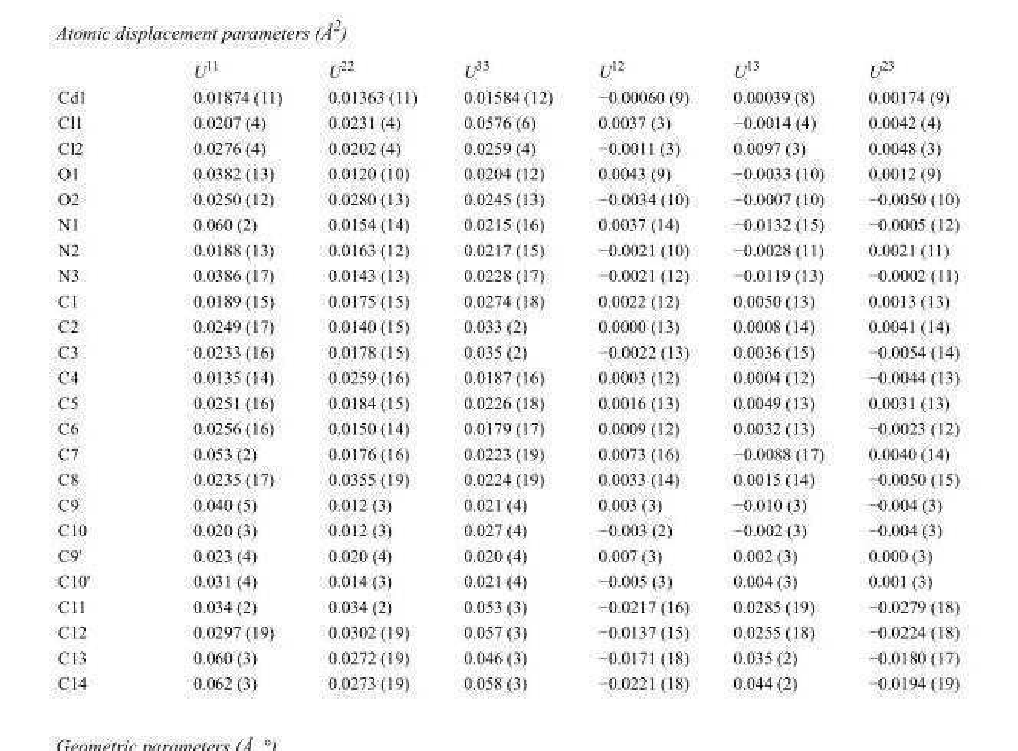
<table><thead><tr><td></td><td>U<sup>11</sup></td><td>U<sup>22</sup></td><td>U<sup>33</sup></td><td>U<sup>12</sup></td><td>U<sup>13</sup></td><td>U<sup>23</sup></td></tr></thead><tbody><tr><td>Cd1</td><td>0.01874 (11)</td><td>0.01363 (11)</td><td>0.01584 (12)</td><td>−0.00060 (9)</td><td>0.00039 (8)</td><td>0.00174 (9)</td></tr><tr><td>Cl1</td><td>0.0207 (4)</td><td>0.0231 (4)</td><td>0.0576 (6)</td><td>0.0037 (3)</td><td>−0.0014 (4)</td><td>0.0042 (4)</td></tr><tr><td>Cl2</td><td>0.0276 (4)</td><td>0.0202 (4)</td><td>0.0259 (4)</td><td>−0.0011 (3)</td><td>0.0097 (3)</td><td>0.0048 (3)</td></tr><tr><td>O1</td><td>0.0382 (13)</td><td>0.0120 (10)</td><td>0.0204 (12)</td><td>0.0043 (9)</td><td>−0.0033 (10)</td><td>0.0012 (9)</td></tr><tr><td>O2</td><td>0.0250 (12)</td><td>0.0280 (13)</td><td>0.0245 (13)</td><td>−0.0034 (10)</td><td>−0.0007 (10)</td><td>−0.0050 (10)</td></tr><tr><td>N1</td><td>0.060 (2)</td><td>0.0154 (14)</td><td>0.0215 (16)</td><td>0.0037 (14)</td><td>−0.0132 (15)</td><td>−0.0005 (12)</td></tr><tr><td>N2</td><td>0.0188 (13)</td><td>0.0163 (12)</td><td>0.0217 (15)</td><td>−0.0021 (10)</td><td>−0.0028 (11)</td><td>0.0021 (11)</td></tr><tr><td>N3</td><td>0.0386 (17)</td><td>0.0143 (13)</td><td>0.0228 (17)</td><td>−0.0021 (12)</td><td>−0.0119 (13)</td><td>−0.0002 (11)</td></tr><tr><td>C1</td><td>0.0189 (15)</td><td>0.0175 (15)</td><td>0.0274 (18)</td><td>0.0022 (12)</td><td>0.0050 (13)</td><td>0.0013 (13)</td></tr><tr><td>C2</td><td>0.0249 (17)</td><td>0.0140 (15)</td><td>0.033 (2)</td><td>0.0000 (13)</td><td>0.0008 (14)</td><td>0.0041 (14)</td></tr><tr><td>C3</td><td>0.0233 (16)</td><td>0.0178 (15)</td><td>0.035 (2)</td><td>−0.0022 (13)</td><td>0.0036 (15)</td><td>−0.0054 (14)</td></tr><tr><td>C4</td><td>0.0135 (14)</td><td>0.0259 (16)</td><td>0.0187 (16)</td><td>0.0003 (12)</td><td>0.0004 (12)</td><td>−0.0044 (13)</td></tr><tr><td>C5</td><td>0.0251 (16)</td><td>0.0184 (15)</td><td>0.0226 (18)</td><td>0.0016 (13)</td><td>0.0049 (13)</td><td>0.0031 (13)</td></tr><tr><td>C6</td><td>0.0256 (16)</td><td>0.0150 (14)</td><td>0.0179 (17)</td><td>0.0009 (12)</td><td>0.0032 (13)</td><td>−0.0023 (12)</td></tr><tr><td>C7</td><td>0.053 (2)</td><td>0.0176 (16)</td><td>0.0223 (19)</td><td>0.0073 (16)</td><td>−0.0088 (17)</td><td>0.0040 (14)</td></tr><tr><td>C8</td><td>0.0235 (17)</td><td>0.0355 (19)</td><td>0.0224 (19)</td><td>0.0033 (14)</td><td>0.0015 (14)</td><td>−0.0050 (15)</td></tr><tr><td>C9</td><td>0.040 (5)</td><td>0.012 (3)</td><td>0.021 (4)</td><td>0.003 (3)</td><td>−0.010 (3)</td><td>−0.004 (3)</td></tr><tr><td>C10</td><td>0.020 (3)</td><td>0.012 (3)</td><td>0.027 (4)</td><td>−0.003 (2)</td><td>−0.002 (3)</td><td>−0.004 (3)</td></tr><tr><td>C9&#x27;</td><td>0.023 (4)</td><td>0.020 (4)</td><td>0.020 (4)</td><td>0.007 (3)</td><td>0.002 (3)</td><td>0.000 (3)</td></tr><tr><td>C10&#x27;</td><td>0.031 (4)</td><td>0.014 (3)</td><td>0.021 (4)</td><td>−0.005 (3)</td><td>0.004 (3)</td><td>0.001 (3)</td></tr><tr><td>C11</td><td>0.034 (2)</td><td>0.034 (2)</td><td>0.053 (3)</td><td>−0.0217 (16)</td><td>0.0285 (19)</td><td>−0.0279 (18)</td></tr><tr><td>C12</td><td>0.0297 (19)</td><td>0.0302 (19)</td><td>0.057 (3)</td><td>−0.0137 (15)</td><td>0.0255 (18)</td><td>−0.0224 (18)</td></tr><tr><td>C13</td><td>0.060 (3)</td><td>0.0272 (19)</td><td>0.046 (3)</td><td>−0.0171 (18)</td><td>0.035 (2)</td><td>−0.0180 (17)</td></tr><tr><td>C14</td><td>0.062 (3)</td><td>0.0273 (19)</td><td>0.058 (3)</td><td>−0.0221 (18)</td><td>0.044 (2)</td><td>−0.0194 (19)</td></tr></tbody></table>